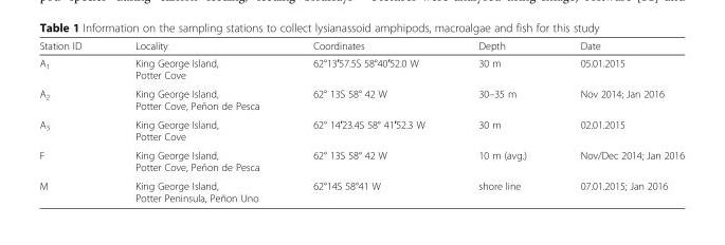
<table><thead><tr><td>Station ID</td><td>Locality</td><td>Coordinates</td><td>Depth</td><td>Date</td></tr></thead><tbody><tr><td>A<sub>1</sub></td><td>King George Island, Potter Cove</td><td>62°13′57.5S 58°40′52.0 W</td><td>30 m</td><td>05.01.2015</td></tr><tr><td>A<sub>2</sub></td><td>King George Island, Potter Cove, Peñon de Pesca</td><td>62° 13S 58° 42 W</td><td>30–35 m</td><td>Nov 2014; Jan 2016</td></tr><tr><td>A<sub>3</sub></td><td>King George Island, Potter Cove</td><td>62° 14′23.4S 58° 41′52.3 W</td><td>30 m</td><td>02.01.2015</td></tr><tr><td>F</td><td>King George Island, Potter Cove, Peñon de Pesca</td><td>62° 13S 58° 42 W</td><td>10 m (avg.)</td><td>Nov/Dec 2014; Jan 2016</td></tr><tr><td>M</td><td>King George Island, Potter Peninsula, Peñon Uno</td><td>62°14S 58°41 W</td><td>shore line</td><td>07.01.2015; Jan 2016</td></tr></tbody></table>